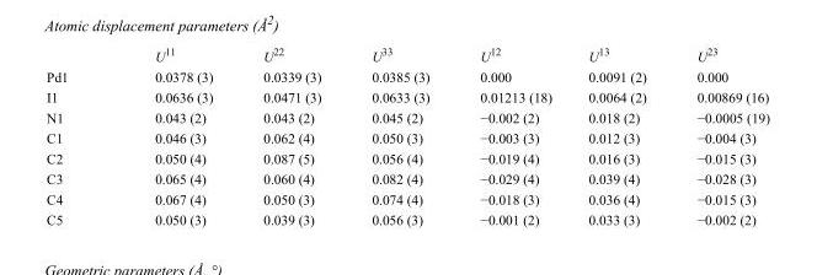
<table><thead><tr><td></td><td>U<sup>11</sup></td><td>U<sup>22</sup></td><td>U<sup>33</sup></td><td>U<sup>12</sup></td><td>U<sup>13</sup></td><td>U<sup>23</sup></td></tr></thead><tbody><tr><td>Pd1</td><td>0.0378 (3)</td><td>0.0339 (3)</td><td>0.0385 (3)</td><td>0.000</td><td>0.0091 (2)</td><td>0.000</td></tr><tr><td>I1</td><td>0.0636 (3)</td><td>0.0471 (3)</td><td>0.0633 (3)</td><td>0.01213 (18)</td><td>0.0064 (2)</td><td>0.00869 (16)</td></tr><tr><td>N1</td><td>0.043 (2)</td><td>0.043 (2)</td><td>0.045 (2)</td><td>−0.002 (2)</td><td>0.018 (2)</td><td>−0.0005 (19)</td></tr><tr><td>C1</td><td>0.046 (3)</td><td>0.062 (4)</td><td>0.050 (3)</td><td>−0.003 (3)</td><td>0.012 (3)</td><td>−0.004 (3)</td></tr><tr><td>C2</td><td>0.050 (4)</td><td>0.087 (5)</td><td>0.056 (4)</td><td>−0.019 (4)</td><td>0.016 (3)</td><td>−0.015 (3)</td></tr><tr><td>C3</td><td>0.065 (4)</td><td>0.060 (4)</td><td>0.082 (4)</td><td>−0.029 (4)</td><td>0.039 (4)</td><td>−0.028 (3)</td></tr><tr><td>C4</td><td>0.067 (4)</td><td>0.050 (3)</td><td>0.074 (4)</td><td>−0.018 (3)</td><td>0.036 (4)</td><td>−0.015 (3)</td></tr><tr><td>C5</td><td>0.050 (3)</td><td>0.039 (3)</td><td>0.056 (3)</td><td>−0.001 (2)</td><td>0.033 (3)</td><td>−0.002 (2)</td></tr></tbody></table>